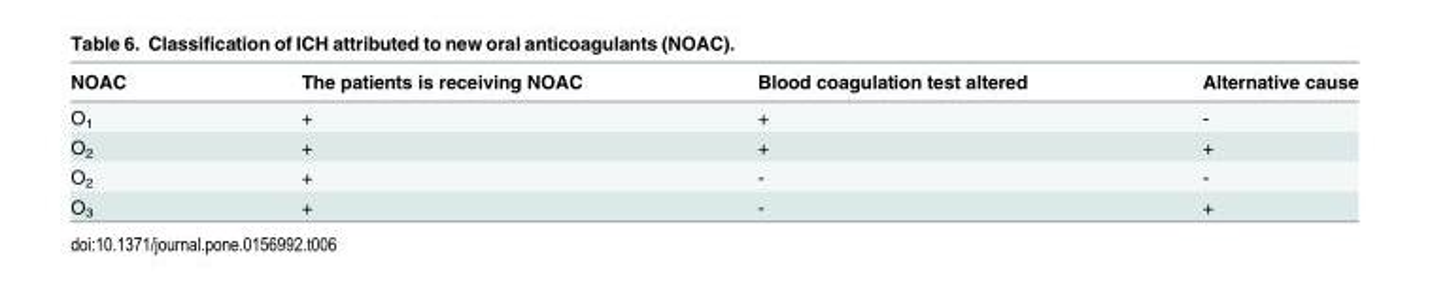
<table><thead><tr><td>NOAC</td><td>The patients is receiving NOAC</td><td>Blood coagulation test altered</td><td>Alternative cause</td></tr></thead><tbody><tr><td>O<sub>1</sub></td><td>+</td><td>+</td><td>-</td></tr><tr><td>O<sub>2</sub></td><td>+</td><td>+</td><td>+</td></tr><tr><td>O<sub>2</sub></td><td>+</td><td>-</td><td>-</td></tr><tr><td>O<sub>3</sub></td><td>+</td><td>-</td><td>+</td></tr></tbody></table>